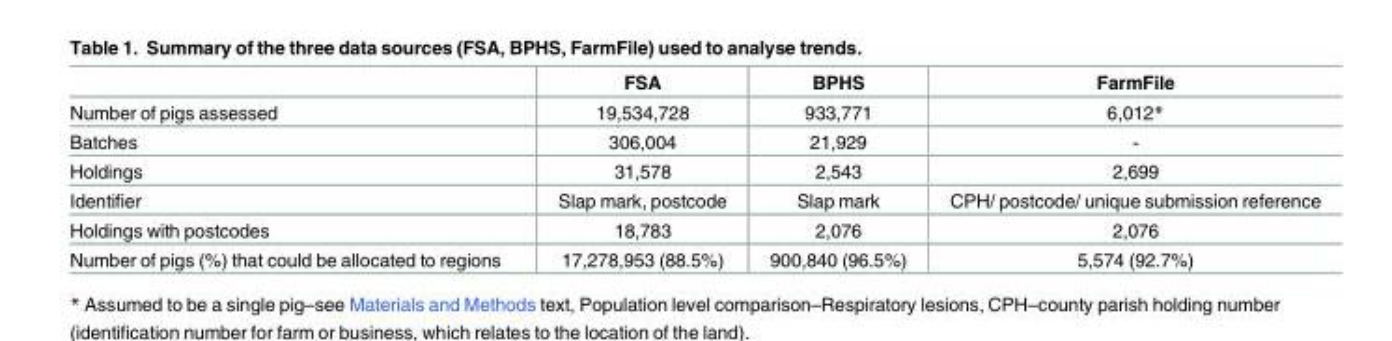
<table><thead><tr><td></td><td>FSA</td><td>BPHS</td><td>FarmFile</td></tr></thead><tbody><tr><td>Number of pigs assessed</td><td>19,534,728</td><td>933,771</td><td>6,012*</td></tr><tr><td>Batches</td><td>306,004</td><td>21,929</td><td>-</td></tr><tr><td>Holdings</td><td>31,578</td><td>2,543</td><td>2,699</td></tr><tr><td>Identifier</td><td>Slap mark, postcode</td><td>Slap mark</td><td>CPH/ postcode/ unique submission reference</td></tr><tr><td>Holdings with postcodes</td><td>18,783</td><td>2,076</td><td>2,076</td></tr><tr><td>Number of pigs (%) that could be allocated to regions</td><td>17,278,953 (88.5%)</td><td>900,840 (96.5%)</td><td>5,574 (92.7%)</td></tr></tbody></table>